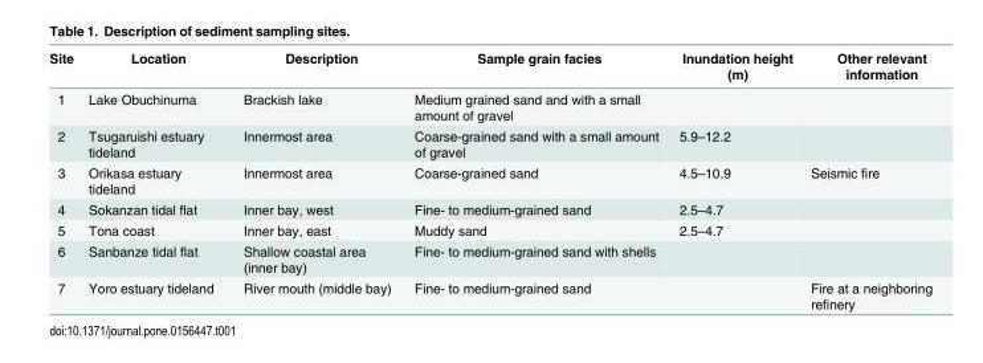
<table><thead><tr><td>Site</td><td>Location</td><td>Description</td><td>Sample grain facies</td><td>Inundation height (m)</td><td>Other relevant information</td></tr></thead><tbody><tr><td>1</td><td>Lake Obuchinuma</td><td>Brackish lake</td><td>Medium grained sand and with a small amount of gravel</td><td></td><td></td></tr><tr><td>2</td><td>Tsugaruishi estuary tideland</td><td>Innermost area</td><td>Coarse-grained sand with a small amount of gravel</td><td>5.9–12.2</td><td></td></tr><tr><td>3</td><td>Orikasa estuary tideland</td><td>Innermost area</td><td>Coarse-grained sand</td><td>4.5–10.9</td><td>Seismic fire</td></tr><tr><td>4</td><td>Sokanzan tidal flat</td><td>Inner bay, west</td><td>Fine- to medium-grained sand</td><td>2.5–4.7</td><td></td></tr><tr><td>5</td><td>Tona coast</td><td>Inner bay, east</td><td>Muddy sand</td><td>2.5–4.7</td><td></td></tr><tr><td>6</td><td>Sanbanze tidal flat</td><td>Shallow coastal area (inner bay)</td><td>Fine- to medium-grained sand with shells</td><td></td><td></td></tr><tr><td>7</td><td>Yoro estuary tideland</td><td>River mouth (middle bay)</td><td>Fine- to medium-grained sand</td><td></td><td>Fire at a neighboring refinery</td></tr></tbody></table>